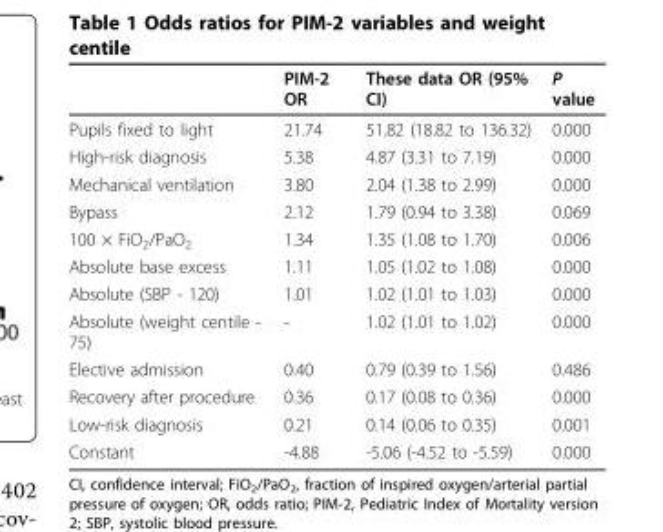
<table><thead><tr><td></td><td>PIM-2 OR</td><td>These data OR (95% CI)</td><td>P value</td></tr></thead><tbody><tr><td>Pupils fixed to light</td><td>21.74</td><td>51.82 (18.82 to 136.32)</td><td>0.000</td></tr><tr><td>High-risk diagnosis</td><td>5.38</td><td>4.87 (3.31 to 7.19)</td><td>0.000</td></tr><tr><td>Mechanical ventilation</td><td>3.80</td><td>2.04 (1.38 to 2.99)</td><td>0.000</td></tr><tr><td>Bypass</td><td>2.12</td><td>1.79 (0.94 to 3.38)</td><td>0.069</td></tr><tr><td>100 × FiO<sub>2</sub>/PaO<sub>2</sub></td><td>1.34</td><td>1.35 (1.08 to 1.70)</td><td>0.006</td></tr><tr><td>Absolute base excess</td><td>1.11</td><td>1.05 (1.02 to 1.08)</td><td>0.000</td></tr><tr><td>Absolute (SBP - 120)</td><td>1.01</td><td>1.02 (1.01 to 1.03)</td><td>0.000</td></tr><tr><td>Absolute (weight centile - 75)</td><td>-</td><td>1.02 (1.01 to 1.02)</td><td>0.000</td></tr><tr><td>Elective admission</td><td>0.40</td><td>0.79 (0.39 to 1.56)</td><td>0.486</td></tr><tr><td>Recovery after procedure</td><td>0.36</td><td>0.17 (0.08 to 0.36)</td><td>0.000</td></tr><tr><td>Low-risk diagnosis</td><td>0.21</td><td>0.14 (0.06 to 0.35)</td><td>0.001</td></tr><tr><td>Constant</td><td>-4.88</td><td>-5.06 (-4.52 to -5.59)</td><td>0.000</td></tr></tbody></table>